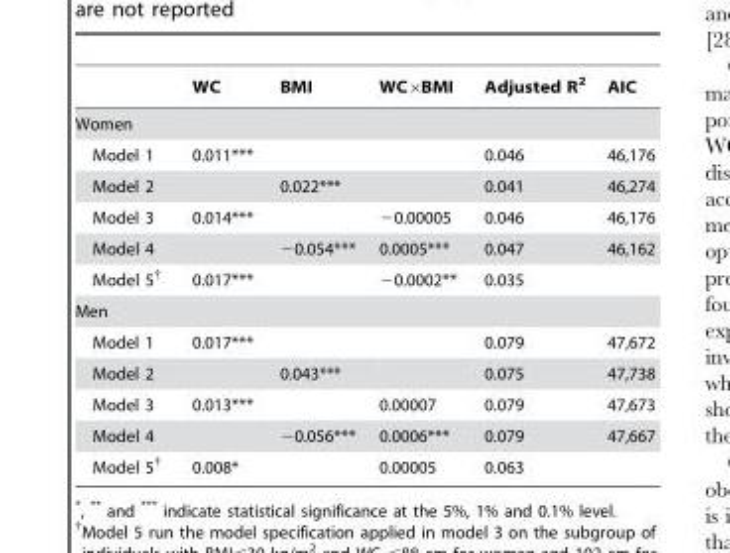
<table><thead><tr><td></td><td>WC</td><td>BMI</td><td>WC×BMI</td><td>Adjusted R<sup>2</sup></td><td>AIC</td></tr></thead><tbody><tr><td colspan="6">Women</td></tr><tr><td>Model 1</td><td>0.011***</td><td></td><td></td><td>0.046</td><td>46,176</td></tr><tr><td>Model 2</td><td></td><td>0.022***</td><td></td><td>0.041</td><td>46,274</td></tr><tr><td>Model 3</td><td>0.014***</td><td></td><td>−0.00005</td><td>0.046</td><td>46,176</td></tr><tr><td>Model 4</td><td></td><td>−0.054***</td><td>0.0005***</td><td>0.047</td><td>46,162</td></tr><tr><td>Model 5†</td><td>0.017***</td><td></td><td>−0.0002**</td><td>0.035</td><td></td></tr><tr><td colspan="6">Men</td></tr><tr><td>Model 1</td><td>0.017***</td><td></td><td></td><td>0.079</td><td>47,672</td></tr><tr><td>Model 2</td><td></td><td>0.043***</td><td></td><td>0.075</td><td>47,738</td></tr><tr><td>Model 3</td><td>0.013***</td><td></td><td>0.00007</td><td>0.079</td><td>47,673</td></tr><tr><td>Model 4</td><td></td><td>−0.056***</td><td>0.0006***</td><td>0.079</td><td>47,667</td></tr><tr><td>Model 5†</td><td>0.008*</td><td></td><td>0.00005</td><td>0.063</td><td></td></tr></tbody></table>